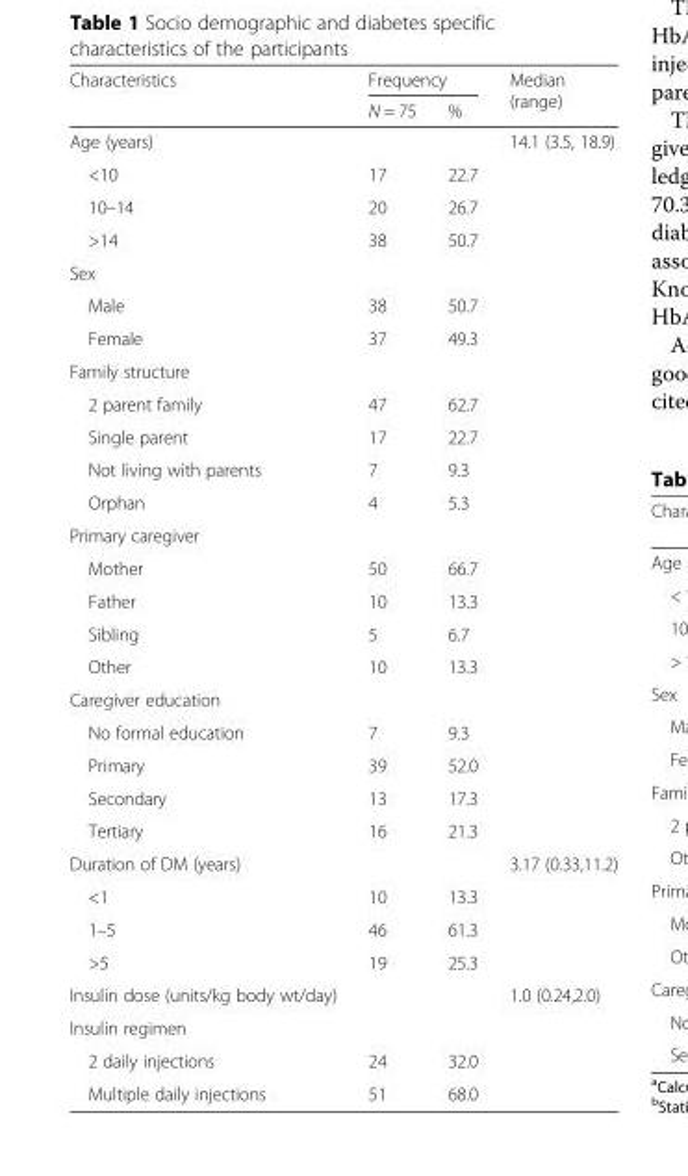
<table><thead><tr><td rowspan="2">Characteristics</td><td colspan="2">Frequency</td><td rowspan="2">Median (range)</td></tr><tr><td>N = 75</td><td>%</td></tr></thead><tbody><tr><td colspan="3">Age (years)</td><td rowspan="4">14.1 (3.5, 18.9)</td></tr><tr><td>&lt;10</td><td>17</td><td>22.7</td></tr><tr><td>10–14</td><td>20</td><td>26.7</td></tr><tr><td>&gt;14</td><td>38</td><td>50.7</td></tr><tr><td colspan="4">Sex</td></tr><tr><td>Male</td><td>38</td><td>50.7</td><td rowspan="2"></td></tr><tr><td>Female</td><td>37</td><td>49.3</td></tr><tr><td colspan="4">Family structure</td></tr><tr><td>2 parent family</td><td>47</td><td>62.7</td><td rowspan="4"></td></tr><tr><td>Single parent</td><td>17</td><td>22.7</td></tr><tr><td>Not living with parents</td><td>7</td><td>9.3</td></tr><tr><td>Orphan</td><td>4</td><td>5.3</td></tr><tr><td colspan="4">Primary caregiver</td></tr><tr><td>Mother</td><td>50</td><td>66.7</td><td rowspan="4"></td></tr><tr><td>Father</td><td>10</td><td>13.3</td></tr><tr><td>Sibling</td><td>5</td><td>6.7</td></tr><tr><td>Other</td><td>10</td><td>13.3</td></tr><tr><td colspan="4">Caregiver education</td></tr><tr><td>No formal education</td><td>7</td><td>9.3</td><td rowspan="4"></td></tr><tr><td>Primary</td><td>39</td><td>52.0</td></tr><tr><td>Secondary</td><td>13</td><td>17.3</td></tr><tr><td>Tertiary</td><td>16</td><td>21.3</td></tr><tr><td colspan="3">Duration of DM (years)</td><td rowspan="4">3.17 (0.33,11.2)</td></tr><tr><td>&lt;1</td><td>10</td><td>13.3</td></tr><tr><td>1–5</td><td>46</td><td>61.3</td></tr><tr><td>&gt;5</td><td>19</td><td>25.3</td></tr><tr><td>Insulin dose (units/kg body wt/day)</td><td></td><td></td><td>1.0 (0.24,2.0)</td></tr><tr><td colspan="4">Insulin regimen</td></tr><tr><td>2 daily injections</td><td>24</td><td>32.0</td><td rowspan="2"></td></tr><tr><td>Multiple daily injections</td><td>51</td><td>68.0</td></tr></tbody></table>